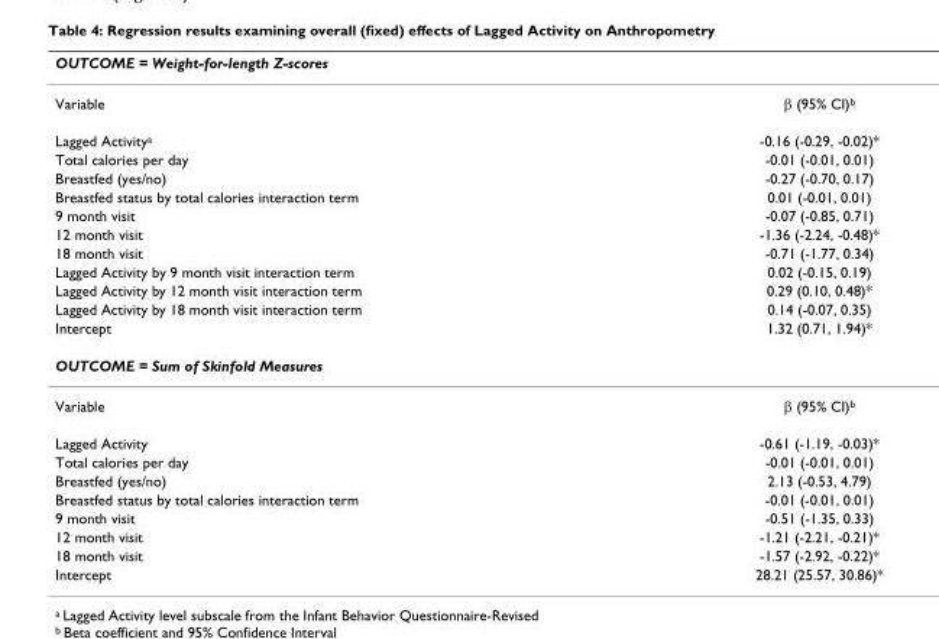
<table><thead><tr><td colspan="2">OUTCOME = Weight-for-length Z-scores</td></tr><tr><td>Variable</td><td>β (95% CI)<sup>b</sup></td></tr></thead><tbody><tr><td>Lagged Activity<sup>a</sup></td><td>-0.16 (-0.29, -0.02)*</td></tr><tr><td>Total calories per day</td><td>-0.01 (-0.01, 0.01)</td></tr><tr><td>Breastfed (yes/no)</td><td>-0.27 (-0.70, 0.17)</td></tr><tr><td>Breastfed status by total calories interaction term</td><td>0.01 (-0.01, 0.01)</td></tr><tr><td>9 month visit</td><td>-0.07 (-0.85, 0.71)</td></tr><tr><td>12 month visit</td><td>-1.36 (-2.24, -0.48)*</td></tr><tr><td>18 month visit</td><td>-0.71 (-1.77, 0.34)</td></tr><tr><td>Lagged Activity by 9 month visit interaction term</td><td>0.02 (-0.15, 0.19)</td></tr><tr><td>Lagged Activity by 12 month visit interaction term</td><td>0.29 (0.10, 0.48)*</td></tr><tr><td>Lagged Activity by 18 month visit interaction term</td><td>0.14 (-0.07, 0.35)</td></tr><tr><td>Intercept</td><td>1.32 (0.71, 1.94)*</td></tr><tr><td colspan="2">OUTCOME = Sum of Skinfold Measures</td></tr><tr><td>Variable</td><td>β (95% CI)<sup>b</sup></td></tr><tr><td>Lagged Activity</td><td>-0.61 (-1.19, -0.03)*</td></tr><tr><td>Total calories per day</td><td>-0.01 (-0.01, 0.01)</td></tr><tr><td>Breastfed (yes/no)</td><td>2.13 (-0.53, 4.79)</td></tr><tr><td>Breastfed status by total calories interaction term</td><td>-0.01 (-0.01, 0.01)</td></tr><tr><td>9 month visit</td><td>-0.51 (-1.35, 0.33)</td></tr><tr><td>12 month visit</td><td>-1.21 (-2.21, -0.21)*</td></tr><tr><td>18 month visit</td><td>-1.57 (-2.92, -0.22)*</td></tr><tr><td>Intercept</td><td>28.21 (25.57, 30.86)*</td></tr></tbody></table>